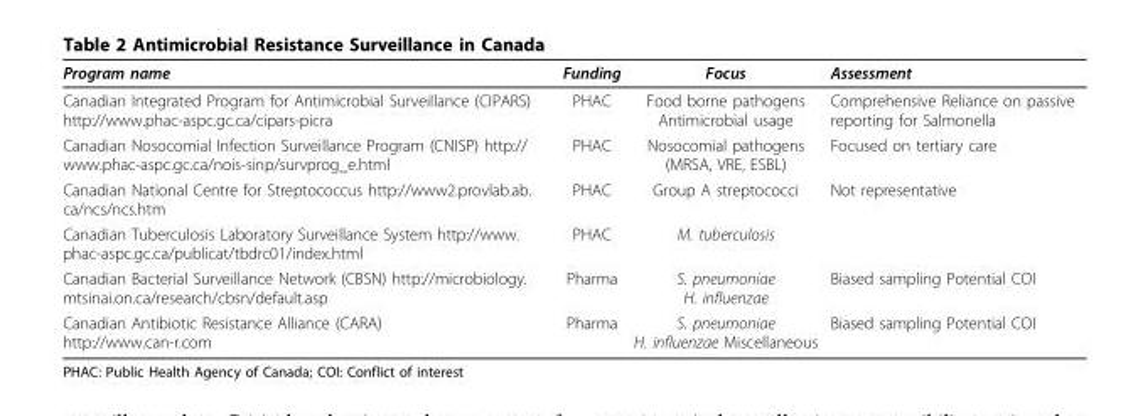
<table><thead><tr><td>Program name</td><td>Funding</td><td>Focus</td><td>Assessment</td></tr></thead><tbody><tr><td>Canadian Integrated Program for Antimicrobial Surveillance (CIPARS) http://www.phac-aspc.gc.ca/cipars-picra</td><td>PHAC</td><td>Food borne pathogens Antimicrobial usage</td><td>Comprehensive Reliance on passive reporting for Salmonella</td></tr><tr><td>Canadian Nosocomial Infection Surveillance Program (CNISP) http:// www.phac-aspc.gc.ca/nois-sinp/survprog_e.html</td><td>PHAC</td><td>Nosocomial pathogens (MRSA, VRE, ESBL)</td><td>Focused on tertiary care</td></tr><tr><td>Canadian National Centre for Streptococcus http://www2.provlab.ab. ca/ncs/ncs.htm</td><td>PHAC</td><td>Group A streptococci</td><td>Not representative</td></tr><tr><td>Canadian Tuberculosis Laboratory Surveillance System http://www. phac-aspc.gc.ca/publicat/tbdrc01/index.html</td><td>PHAC</td><td>M. tuberculosis</td><td></td></tr><tr><td>Canadian Bacterial Surveillance Network (CBSN) http://microbiology. mtsinai.on.ca/research/cbsn/default.asp</td><td>Pharma</td><td>S. pneumoniae H. influenzae</td><td>Biased sampling Potential COI</td></tr><tr><td>Canadian Antibiotic Resistance Alliance (CARA) http://www.can-r.com</td><td>Pharma</td><td>S. pneumoniae H. influenzae Miscellaneous</td><td>Biased sampling Potential COI</td></tr></tbody></table>